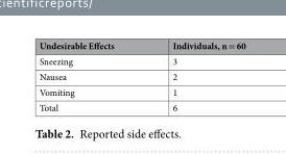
<table><thead><tr><td>Undesirable Effects</td><td>Individuals, n = 60</td></tr></thead><tbody><tr><td>Sneezing</td><td>3</td></tr><tr><td>Nausea</td><td>2</td></tr><tr><td>Vomiting</td><td>1</td></tr><tr><td>Total</td><td>6</td></tr></tbody></table>